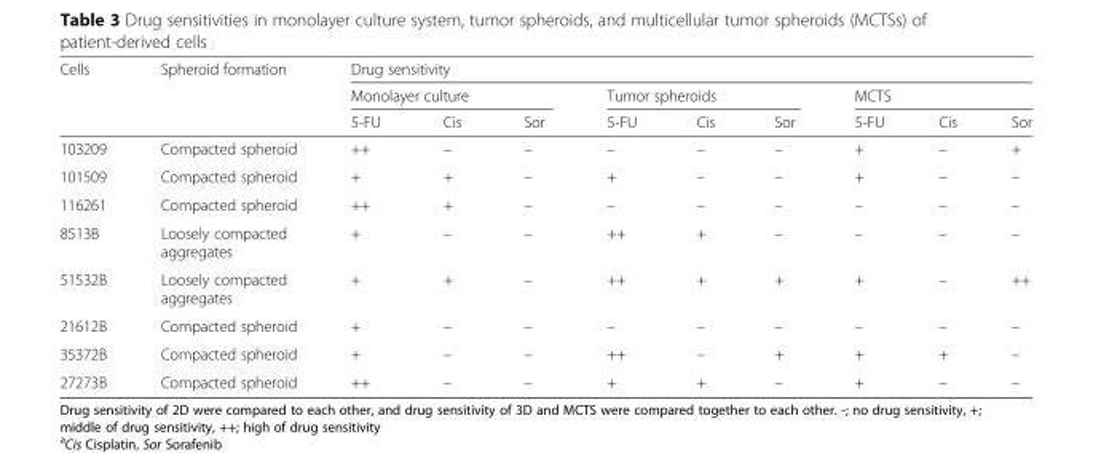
<table><thead><tr><td rowspan="3">Cells</td><td rowspan="3">Spheroid formation</td><td colspan="9">Drug sensitivity</td></tr><tr><td colspan="3">Monolayer culture</td><td colspan="3">Tumor spheroids</td><td colspan="3">MCTS</td></tr><tr><td>5-FU</td><td>Cis</td><td>Sor</td><td>5-FU</td><td>Cis</td><td>Sor</td><td>5-FU</td><td>Cis</td><td>Sor</td></tr></thead><tbody><tr><td>103209</td><td>Compacted spheroid</td><td>++</td><td>–</td><td>–</td><td>–</td><td>–</td><td>–</td><td>+</td><td>–</td><td>+</td></tr><tr><td>101509</td><td>Compacted spheroid</td><td>+</td><td>+</td><td>–</td><td>+</td><td>–</td><td>–</td><td>+</td><td>–</td><td>–</td></tr><tr><td>116261</td><td>Compacted spheroid</td><td>++</td><td>+</td><td>–</td><td>–</td><td>–</td><td>–</td><td>–</td><td>–</td><td>–</td></tr><tr><td>8513B</td><td>Loosely compacted aggregates</td><td>+</td><td>–</td><td>–</td><td>++</td><td>+</td><td>–</td><td>–</td><td>–</td><td>–</td></tr><tr><td>51532B</td><td>Loosely compacted aggregates</td><td>+</td><td>+</td><td>–</td><td>++</td><td>+</td><td>+</td><td>+</td><td>–</td><td>++</td></tr><tr><td>21612B</td><td>Compacted spheroid</td><td>+</td><td>–</td><td>–</td><td>–</td><td>–</td><td>–</td><td>–</td><td>–</td><td>–</td></tr><tr><td>35372B</td><td>Compacted spheroid</td><td>+</td><td>–</td><td>–</td><td>++</td><td>–</td><td>+</td><td>+</td><td>+</td><td>–</td></tr><tr><td>27273B</td><td>Compacted spheroid</td><td>++</td><td>–</td><td>–</td><td>+</td><td>+</td><td>–</td><td>+</td><td>–</td><td>–</td></tr></tbody></table>